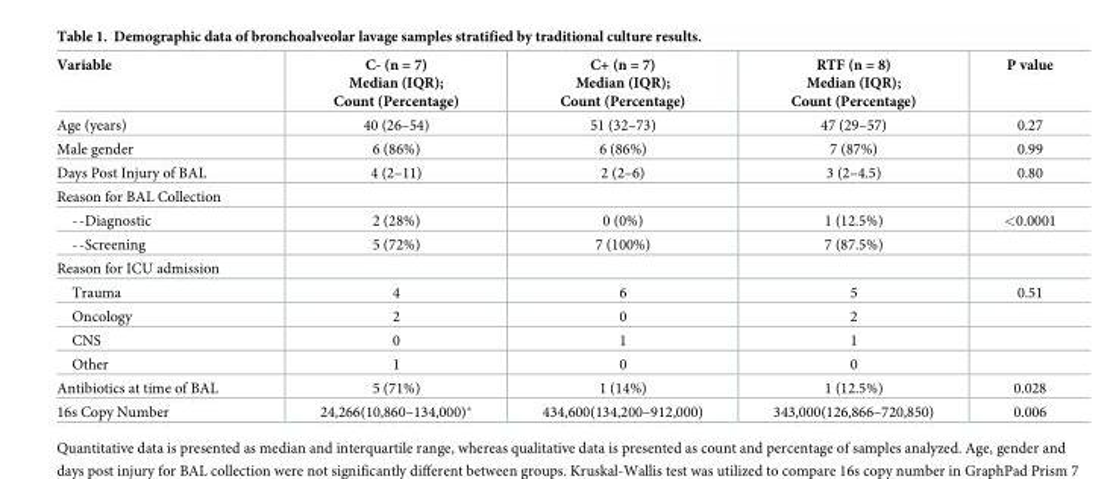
<table><thead><tr><td>Variable</td><td>C- (n = 7) Median (IQR); Count (Percentage)</td><td>C+ (n = 7) Median (IQR); Count (Percentage)</td><td>RTF (n = 8) Median (IQR); Count (Percentage)</td><td>P value</td></tr></thead><tbody><tr><td>Age (years)</td><td>40 (26–54)</td><td>51 (32–73)</td><td>47 (29–57)</td><td>0.27</td></tr><tr><td>Male gender</td><td>6 (86%)</td><td>6 (86%)</td><td>7 (87%)</td><td>0.99</td></tr><tr><td>Days Post Injury of BAL</td><td>4 (2–11)</td><td>2 (2–6)</td><td>3 (2–4.5)</td><td>0.80</td></tr><tr><td colspan="5">Reason for BAL Collection</td></tr><tr><td>--Diagnostic</td><td>2 (28%)</td><td>0 (0%)</td><td>1 (12.5%)</td><td>&lt;0.0001</td></tr><tr><td>--Screening</td><td>5 (72%)</td><td>7 (100%)</td><td>7 (87.5%)</td><td></td></tr><tr><td colspan="5">Reason for ICU admission</td></tr><tr><td>Trauma</td><td>4</td><td>6</td><td>5</td><td>0.51</td></tr><tr><td>Oncology</td><td>2</td><td>0</td><td>2</td><td></td></tr><tr><td>CNS</td><td>0</td><td>1</td><td>1</td><td></td></tr><tr><td>Other</td><td>1</td><td>0</td><td>0</td><td></td></tr><tr><td>Antibiotics at time of BAL</td><td>5 (71%)</td><td>1 (14%)</td><td>1 (12.5%)</td><td>0.028</td></tr><tr><td>16s Copy Number</td><td>24,266(10,860–134,000)*</td><td>434,600(134,200–912,000)</td><td>343,000(126,866–720,850)</td><td>0.006</td></tr></tbody></table>